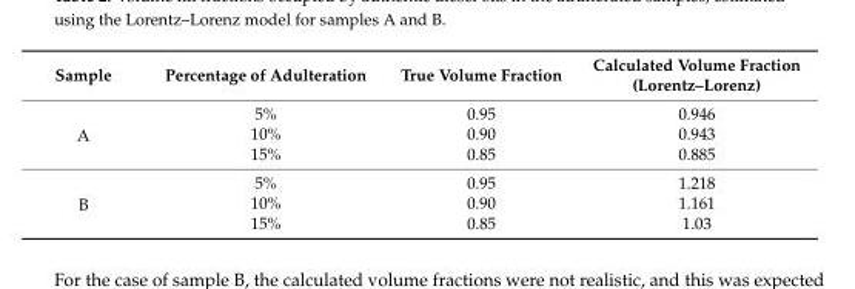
<table><thead><tr><td>Sample</td><td>Percentage of Adulteration</td><td>True Volume Fraction</td><td>Calculated Volume Fraction (Lorentz–Lorenz)</td></tr></thead><tbody><tr><td rowspan="3">A</td><td>5%</td><td>0.95</td><td>0.946</td></tr><tr><td>10%</td><td>0.90</td><td>0.943</td></tr><tr><td>15%</td><td>0.85</td><td>0.885</td></tr><tr><td rowspan="3">B</td><td>5%</td><td>0.95</td><td>1.218</td></tr><tr><td>10%</td><td>0.90</td><td>1.161</td></tr><tr><td>15%</td><td>0.85</td><td>1.03</td></tr></tbody></table>